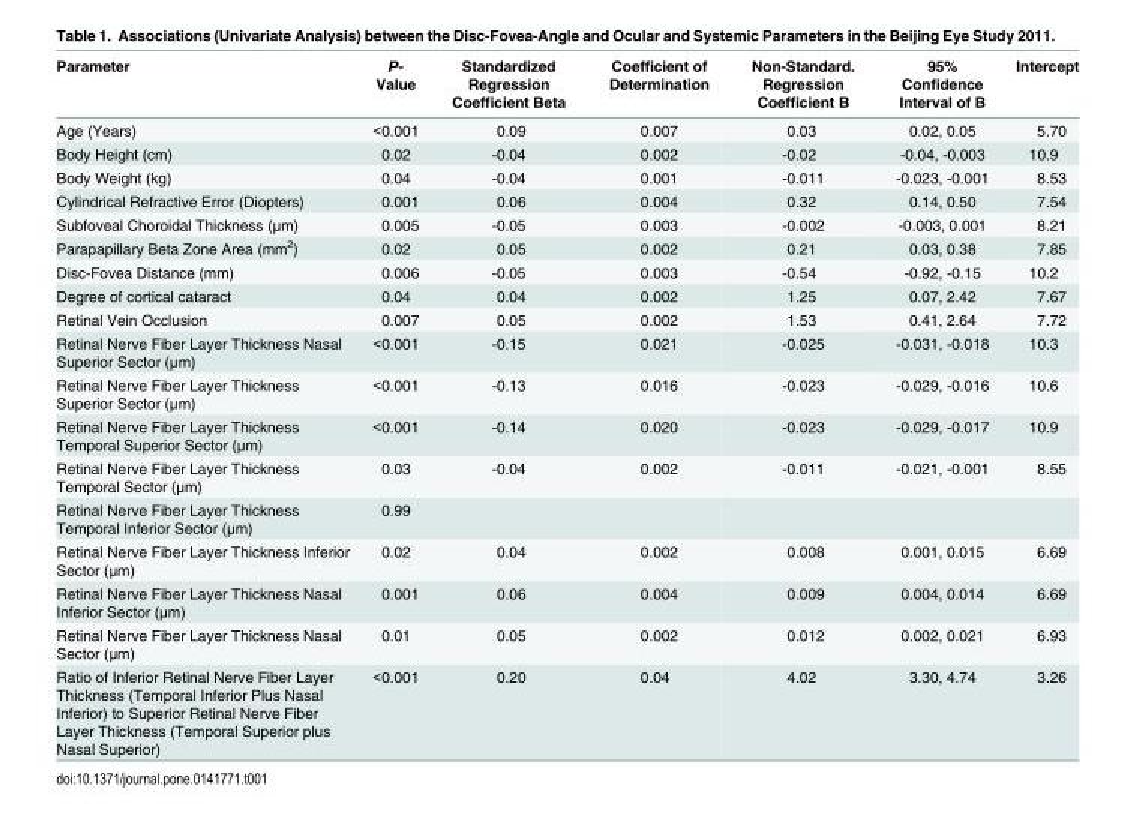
<table><thead><tr><td>Parameter</td><td>P- Value</td><td>Standardized Regression Coefficient Beta</td><td>Coefficient of Determination</td><td>Non-Standard. Regression Coefficient B</td><td>95% Confidence Interval of B</td><td>Intercept</td></tr></thead><tbody><tr><td>Age (Years)</td><td>&lt;0.001</td><td>0.09</td><td>0.007</td><td>0.03</td><td>0.02, 0.05</td><td>5.70</td></tr><tr><td>Body Height (cm)</td><td>0.02</td><td>-0.04</td><td>0.002</td><td>-0.02</td><td>-0.04, -0.003</td><td>10.9</td></tr><tr><td>Body Weight (kg)</td><td>0.04</td><td>-0.04</td><td>0.001</td><td>-0.011</td><td>-0.023, -0.001</td><td>8.53</td></tr><tr><td>Cylindrical Refractive Error (Diopters)</td><td>0.001</td><td>0.06</td><td>0.004</td><td>0.32</td><td>0.14, 0.50</td><td>7.54</td></tr><tr><td>Subfoveal Choroidal Thickness (μm)</td><td>0.005</td><td>-0.05</td><td>0.003</td><td>-0.002</td><td>-0.003, 0.001</td><td>8.21</td></tr><tr><td>Parapapillary Beta Zone Area (mm<sup>2</sup>)</td><td>0.02</td><td>0.05</td><td>0.002</td><td>0.21</td><td>0.03, 0.38</td><td>7.85</td></tr><tr><td>Disc-Fovea Distance (mm)</td><td>0.006</td><td>-0.05</td><td>0.003</td><td>-0.54</td><td>-0.92, -0.15</td><td>10.2</td></tr><tr><td>Degree of cortical cataract</td><td>0.04</td><td>0.04</td><td>0.002</td><td>1.25</td><td>0.07, 2.42</td><td>7.67</td></tr><tr><td>Retinal Vein Occlusion</td><td>0.007</td><td>0.05</td><td>0.002</td><td>1.53</td><td>0.41, 2.64</td><td>7.72</td></tr><tr><td>Retinal Nerve Fiber Layer Thickness Nasal Superior Sector (μm)</td><td>&lt;0.001</td><td>-0.15</td><td>0.021</td><td>-0.025</td><td>-0.031, -0.018</td><td>10.3</td></tr><tr><td>Retinal Nerve Fiber Layer Thickness Superior Sector (μm)</td><td>&lt;0.001</td><td>-0.13</td><td>0.016</td><td>-0.023</td><td>-0.029, -0.016</td><td>10.6</td></tr><tr><td>Retinal Nerve Fiber Layer Thickness Temporal Superior Sector (μm)</td><td>&lt;0.001</td><td>-0.14</td><td>0.020</td><td>-0.023</td><td>-0.029, -0.017</td><td>10.9</td></tr><tr><td>Retinal Nerve Fiber Layer Thickness Temporal Sector (μm)</td><td>0.03</td><td>-0.04</td><td>0.002</td><td>-0.011</td><td>-0.021, -0.001</td><td>8.55</td></tr><tr><td>Retinal Nerve Fiber Layer Thickness Temporal Inferior Sector (μm)</td><td>0.99</td><td></td><td></td><td></td><td></td><td></td></tr><tr><td>Retinal Nerve Fiber Layer Thickness Inferior Sector (μm)</td><td>0.02</td><td>0.04</td><td>0.002</td><td>0.008</td><td>0.001, 0.015</td><td>6.69</td></tr><tr><td>Retinal Nerve Fiber Layer Thickness Nasal Inferior Sector (μm)</td><td>0.001</td><td>0.06</td><td>0.004</td><td>0.009</td><td>0.004, 0.014</td><td>6.69</td></tr><tr><td>Retinal Nerve Fiber Layer Thickness Nasal Sector (μm)</td><td>0.01</td><td>0.05</td><td>0.002</td><td>0.012</td><td>0.002, 0.021</td><td>6.93</td></tr><tr><td>Ratio of Inferior Retinal Nerve Fiber Layer Thickness (Temporal Inferior Plus Nasal Inferior) to Superior Retinal Nerve Fiber Layer Thickness (Temporal Superior plus Nasal Superior)</td><td>&lt;0.001</td><td>0.20</td><td>0.04</td><td>4.02</td><td>3.30, 4.74</td><td>3.26</td></tr></tbody></table>